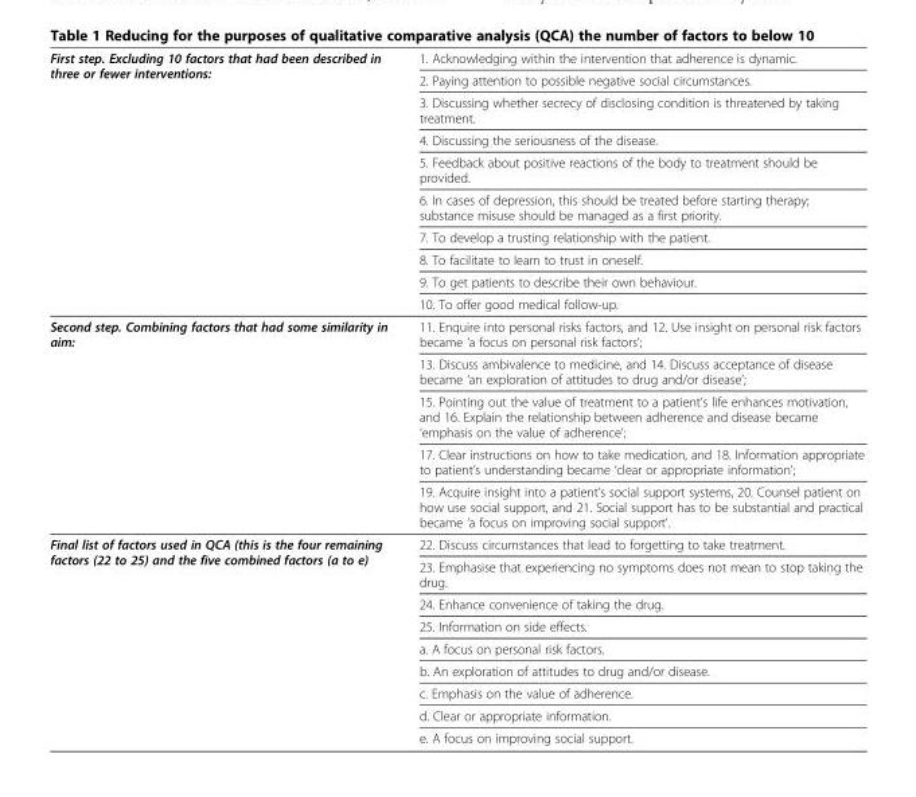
<table><tbody><tr><td rowspan="10">First step. Excluding 10 factors that had been described in three or fewer interventions:</td><td>1. Acknowledging within the intervention that adherence is dynamic.</td></tr><tr><td>2. Paying attention to possible negative social circumstances.</td></tr><tr><td>3. Discussing whether secrecy of disclosing condition is threatened by taking treatment.</td></tr><tr><td>4. Discussing the seriousness of the disease.</td></tr><tr><td>5. Feedback about positive reactions of the body to treatment should be provided.</td></tr><tr><td>6. In cases of depression, this should be treated before starting therapy; substance misuse should be managed as a first priority.</td></tr><tr><td>7. To develop a trusting relationship with the patient.</td></tr><tr><td>8. To facilitate to learn to trust in oneself.</td></tr><tr><td>9. To get patients to describe their own behaviour.</td></tr><tr><td>10. To offer good medical follow-up.</td></tr><tr><td rowspan="5">Second step. Combining factors that had some similarity in aim:</td><td>11. Enquire into personal risks factors, and 12. Use insight on personal risk factors became ‘a focus on personal risk factors’;</td></tr><tr><td>13. Discuss ambivalence to medicine, and 14. Discuss acceptance of disease became ‘an exploration of attitudes to drug and/or disease’;</td></tr><tr><td>15. Pointing out the value of treatment to a patient’s life enhances motivation, and 16. Explain the relationship between adherence and disease became ‘emphasis on the value of adherence’;</td></tr><tr><td>17. Clear instructions on how to take medication, and 18. Information appropriate to patient’s understanding became ‘clear or appropriate information’;</td></tr><tr><td>19. Acquire insight into a patient’s social support systems, 20. Counsel patient on how use social support, and 21. Social support has to be substantial and practical became ‘a focus on improving social support’.</td></tr><tr><td rowspan="9">Final list of factors used in QCA (this is the four remaining factors (22 to 25) and the five combined factors (a to e)</td><td>22. Discuss circumstances that lead to forgetting to take treatment.</td></tr><tr><td>23. Emphasise that experiencing no symptoms does not mean to stop taking the drug.</td></tr><tr><td>24. Enhance convenience of taking the drug.</td></tr><tr><td>25. Information on side effects.</td></tr><tr><td>a. A focus on personal risk factors.</td></tr><tr><td>b. An exploration of attitudes to drug and/or disease.</td></tr><tr><td>c. Emphasis on the value of adherence.</td></tr><tr><td>d. Clear or appropriate information.</td></tr><tr><td>e. A focus on improving social support.</td></tr></tbody></table>